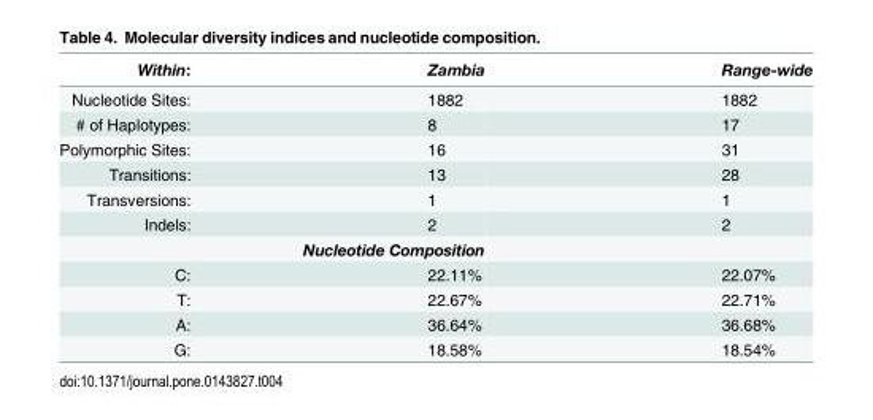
<table><thead><tr><td>Within:</td><td>Zambia</td><td>Range-wide</td></tr></thead><tbody><tr><td>Nucleotide Sites:</td><td>1882</td><td>1882</td></tr><tr><td># of Haplotypes:</td><td>8</td><td>17</td></tr><tr><td>Polymorphic Sites:</td><td>16</td><td>31</td></tr><tr><td>Transitions:</td><td>13</td><td>28</td></tr><tr><td>Transversions:</td><td>1</td><td>1</td></tr><tr><td>Indels:</td><td>2</td><td>2</td></tr><tr><td colspan="3">Nucleotide Composition</td></tr><tr><td>C:</td><td>22.11%</td><td>22.07%</td></tr><tr><td>T:</td><td>22.67%</td><td>22.71%</td></tr><tr><td>A:</td><td>36.64%</td><td>36.68%</td></tr><tr><td>G:</td><td>18.58%</td><td>18.54%</td></tr></tbody></table>